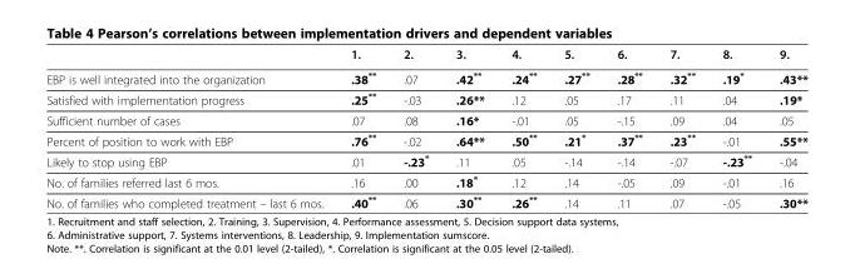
<table><thead><tr><td></td><td>1.</td><td>2.</td><td>3.</td><td>4.</td><td>5.</td><td>6.</td><td>7.</td><td>8.</td><td>9.</td></tr></thead><tbody><tr><td>EBP is well integrated into the organization</td><td>.38**</td><td>.07</td><td>.42**</td><td>.24**</td><td>.27**</td><td>.28**</td><td>.32**</td><td>.19*</td><td>.43**</td></tr><tr><td>Satisfied with implementation progress</td><td>.25**</td><td>-.03</td><td>.26**</td><td>.12</td><td>.05</td><td>.17</td><td>.11</td><td>.04</td><td>.19*</td></tr><tr><td>Sufficient number of cases</td><td>.07</td><td>.08</td><td>.16*</td><td>-.01</td><td>.05</td><td>-.15</td><td>.09</td><td>.04</td><td>.05</td></tr><tr><td>Percent of position to work with EBP</td><td>.76**</td><td>-.02</td><td>.64**</td><td>.50**</td><td>.21*</td><td>.37**</td><td>.23**</td><td>-.01</td><td>.55**</td></tr><tr><td>Likely to stop using EBP</td><td>.01</td><td>-.23*</td><td>.11</td><td>.05</td><td>-.14</td><td>-.14</td><td>-.07</td><td>-.23**</td><td>-.04</td></tr><tr><td>No. of families referred last 6 mos.</td><td>.16</td><td>.00</td><td>.18*</td><td>.12</td><td>.14</td><td>-.05</td><td>.09</td><td>-.01</td><td>.16</td></tr><tr><td>No. of families who completed treatment – last 6 mos.</td><td>.40**</td><td>.06</td><td>.30**</td><td>.26**</td><td>.14</td><td>.11</td><td>.07</td><td>-.05</td><td>.30**</td></tr></tbody></table>